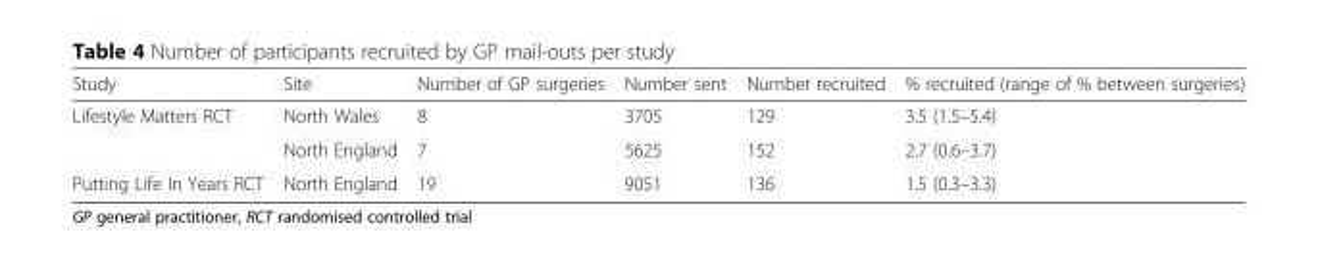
<table><thead><tr><td>Study</td><td>Site</td><td>Number of GP surgeries</td><td>Number sent</td><td>Number recruited</td><td>% recruited (range of % between surgeries)</td></tr></thead><tbody><tr><td rowspan="2">Lifestyle Matters RCT</td><td>North Wales</td><td>8</td><td>3705</td><td>129</td><td>3.5 (1.5–5.4)</td></tr><tr><td>North England</td><td>7</td><td>5625</td><td>152</td><td>2.7 (0.6–3.7)</td></tr><tr><td>Putting Life In Years RCT</td><td>North England</td><td>19</td><td>9051</td><td>136</td><td>1.5 (0.3–3.3)</td></tr></tbody></table>